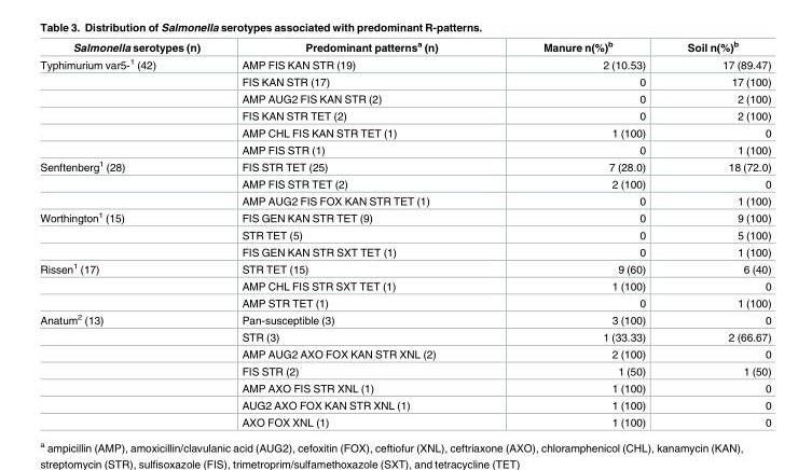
<table><thead><tr><td>Salmonella serotypes (n)</td><td>Predominant patterns<sup>a</sup> (n)</td><td>Manure n(%)<sup>b</sup></td><td>Soil n(%)<sup>b</sup></td></tr></thead><tbody><tr><td rowspan="6">Typhimurium var5-<sup>1</sup> (42)</td><td>AMP FIS KAN STR (19)</td><td>2 (10.53)</td><td>17 (89.47)</td></tr><tr><td>FIS KAN STR (17)</td><td>0</td><td>17 (100)</td></tr><tr><td>AMP AUG2 FIS KAN STR (2)</td><td>0</td><td>2 (100)</td></tr><tr><td>FIS KAN STR TET (2)</td><td>0</td><td>2 (100)</td></tr><tr><td>AMP CHL FIS KAN STR TET (1)</td><td>1 (100)</td><td>0</td></tr><tr><td>AMP FIS STR (1)</td><td>0</td><td>1 (100)</td></tr><tr><td rowspan="3">Senftenberg<sup>1</sup> (28)</td><td>FIS STR TET (25)</td><td>7 (28.0)</td><td>18 (72.0)</td></tr><tr><td>AMP FIS STR TET (2)</td><td>2 (100)</td><td>0</td></tr><tr><td>AMP AUG2 FIS FOX KAN STR TET (1)</td><td>0</td><td>1 (100)</td></tr><tr><td rowspan="3">Worthington<sup>1</sup> (15)</td><td>FIS GEN KAN STR TET (9)</td><td>0</td><td>9 (100)</td></tr><tr><td>STR TET (5)</td><td>0</td><td>5 (100)</td></tr><tr><td>FIS GEN KAN STR SXT TET (1)</td><td>0</td><td>1 (100)</td></tr><tr><td rowspan="3">Rissen<sup>1</sup> (17)</td><td>STR TET (15)</td><td>9 (60)</td><td>6 (40)</td></tr><tr><td>AMP CHL FIS STR SXT TET (1)</td><td>1 (100)</td><td>0</td></tr><tr><td>AMP STR TET (1)</td><td>0</td><td>1 (100)</td></tr><tr><td rowspan="7">Anatum<sup>2</sup> (13)</td><td>Pan-susceptible (3)</td><td>3 (100)</td><td>0</td></tr><tr><td>STR (3)</td><td>1 (33.33)</td><td>2 (66.67)</td></tr><tr><td>AMP AUG2 AXO FOX KAN STR XNL (2)</td><td>2 (100)</td><td>0</td></tr><tr><td>FIS STR (2)</td><td>1 (50)</td><td>1 (50)</td></tr><tr><td>AMP AXO FIS STR XNL (1)</td><td>1 (100)</td><td>0</td></tr><tr><td>AUG2 AXO FOX KAN STR XNL (1)</td><td>1 (100)</td><td>0</td></tr><tr><td>AXO FOX XNL (1)</td><td>1 (100)</td><td>0</td></tr></tbody></table>